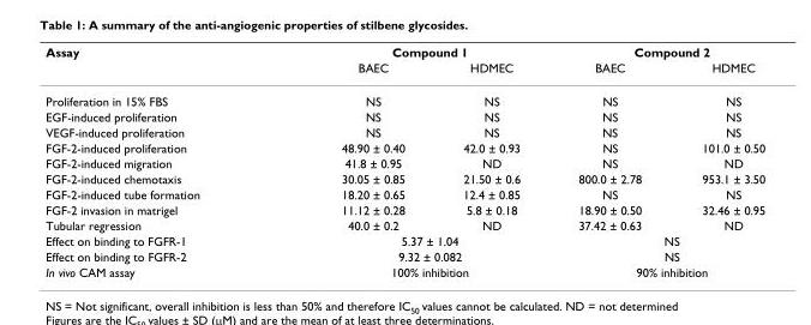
<table><thead><tr><td rowspan="2">Assay</td><td colspan="2">Compound 1</td><td colspan="2">Compound 2</td></tr><tr><td>BAEC</td><td>HDMEC</td><td>BAEC</td><td>HDMEC</td></tr></thead><tbody><tr><td>Proliferation in 15% FBS</td><td>NS</td><td>NS</td><td>NS</td><td>NS</td></tr><tr><td>EGF-induced proliferation</td><td>NS</td><td>NS</td><td>NS</td><td>NS</td></tr><tr><td>VEGF-induced proliferation</td><td>NS</td><td>NS</td><td>NS</td><td>NS</td></tr><tr><td>FGF-2-induced proliferation</td><td>48.90 ± 0.40</td><td>42.0 ± 0.93</td><td>NS</td><td>101.0 ± 0.50</td></tr><tr><td>FGF-2-induced migration</td><td>41.8 ± 0.95</td><td>ND</td><td>NS</td><td>ND</td></tr><tr><td>FGF-2-induced chemotaxis</td><td>30.05 ± 0.85</td><td>21.50 ± 0.6</td><td>800.0 ± 2.78</td><td>953.1 ± 3.50</td></tr><tr><td>FGF-2-induced tube formation</td><td>18.20 ± 0.65</td><td>12.4 ± 0.85</td><td>NS</td><td>NS</td></tr><tr><td>FGF-2 invasion in matrigel</td><td>11.12 ± 0.28</td><td>5.8 ± 0.18</td><td>18.90 ± 0.50</td><td>32.46 ± 0.95</td></tr><tr><td>Tubular regression</td><td>40.0 ± 0.2</td><td>ND</td><td>37.42 ± 0.63</td><td>ND</td></tr><tr><td>Effect on binding to FGFR-1</td><td colspan="2">5.37 ± 1.04</td><td colspan="2">NS</td></tr><tr><td>Effect on binding to FGFR-2</td><td colspan="2">9.32 ± 0.082</td><td colspan="2">NS</td></tr><tr><td>In vivo CAM assay</td><td colspan="2">100% inhibition</td><td colspan="2">90% inhibition</td></tr></tbody></table>